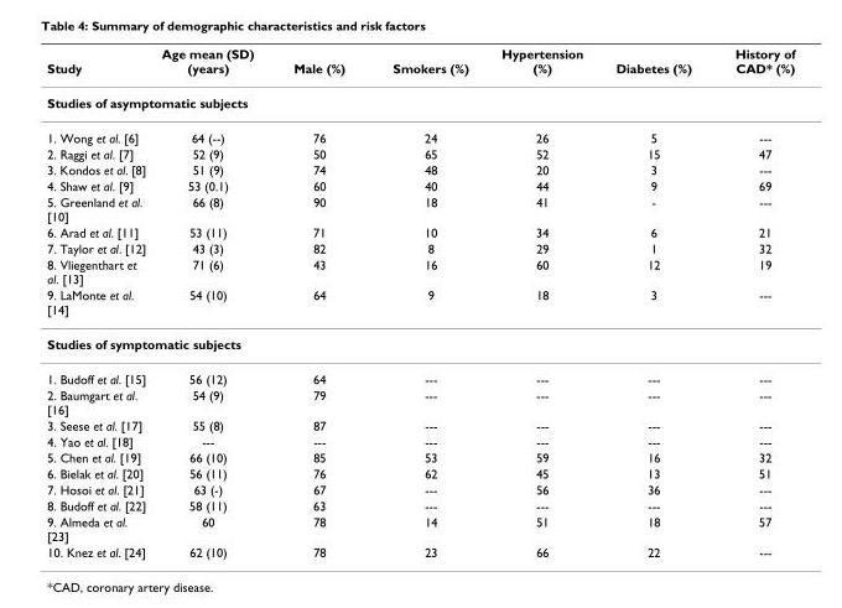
<table><thead><tr><td>Study</td><td>Age mean (SD) (years)</td><td>Male (%)</td><td>Smokers (%)</td><td>Hypertension (%)</td><td>Diabetes (%)</td><td>History of CAD* (%)</td></tr></thead><tbody><tr><td colspan="7">Studies of asymptomatic subjects</td></tr><tr><td>1. Wong et al. [6]</td><td>64 (--)</td><td>76</td><td>24</td><td>26</td><td>5</td><td>---</td></tr><tr><td>2. Raggi et al. [7]</td><td>52 (9)</td><td>50</td><td>65</td><td>52</td><td>15</td><td>47</td></tr><tr><td>3. Kondos et al. [8]</td><td>51 (9)</td><td>74</td><td>48</td><td>20</td><td>3</td><td>---</td></tr><tr><td>4. Shaw et al. [9]</td><td>53 (0.1)</td><td>60</td><td>40</td><td>44</td><td>9</td><td>69</td></tr><tr><td>5. Greenland et al. [10]</td><td>66 (8)</td><td>90</td><td>18</td><td>41</td><td>-</td><td>---</td></tr><tr><td>6. Arad et al. [11]</td><td>53 (11)</td><td>71</td><td>10</td><td>34</td><td>6</td><td>21</td></tr><tr><td>7. Taylor et al. [12]</td><td>43 (3)</td><td>82</td><td>8</td><td>29</td><td>1</td><td>32</td></tr><tr><td>8. Vliegenthart et al. [13]</td><td>71 (6)</td><td>43</td><td>16</td><td>60</td><td>12</td><td>19</td></tr><tr><td>9. LaMonte et al. [14]</td><td>54 (10)</td><td>64</td><td>9</td><td>18</td><td>3</td><td>---</td></tr><tr><td colspan="7">Studies of symptomatic subjects</td></tr><tr><td>1. Budoff et al. [15]</td><td>56 (12)</td><td>64</td><td>---</td><td>---</td><td>---</td><td>---</td></tr><tr><td>2. Baumgart et al. [16]</td><td>54 (9)</td><td>79</td><td>---</td><td>---</td><td>---</td><td>---</td></tr><tr><td>3. Seese et al. [17]</td><td>55 (8)</td><td>87</td><td>---</td><td>---</td><td>---</td><td>---</td></tr><tr><td>4. Yao et al. [18]</td><td>---</td><td>---</td><td>---</td><td>---</td><td>---</td><td>---</td></tr><tr><td>5. Chen et al. [19]</td><td>66 (10)</td><td>85</td><td>53</td><td>59</td><td>16</td><td>32</td></tr><tr><td>6. Bielak et al. [20]</td><td>56 (11)</td><td>76</td><td>62</td><td>45</td><td>13</td><td>51</td></tr><tr><td>7. Hosoi et al. [21]</td><td>63 (-)</td><td>67</td><td>---</td><td>56</td><td>36</td><td>---</td></tr><tr><td>8. Budoff et al. [22]</td><td>58 (11)</td><td>63</td><td>---</td><td>---</td><td>---</td><td>---</td></tr><tr><td>9. Almeda et al. [23]</td><td>60</td><td>78</td><td>14</td><td>51</td><td>18</td><td>57</td></tr><tr><td>10. Knez et al. [24]</td><td>62 (10)</td><td>78</td><td>23</td><td>66</td><td>22</td><td>---</td></tr></tbody></table>